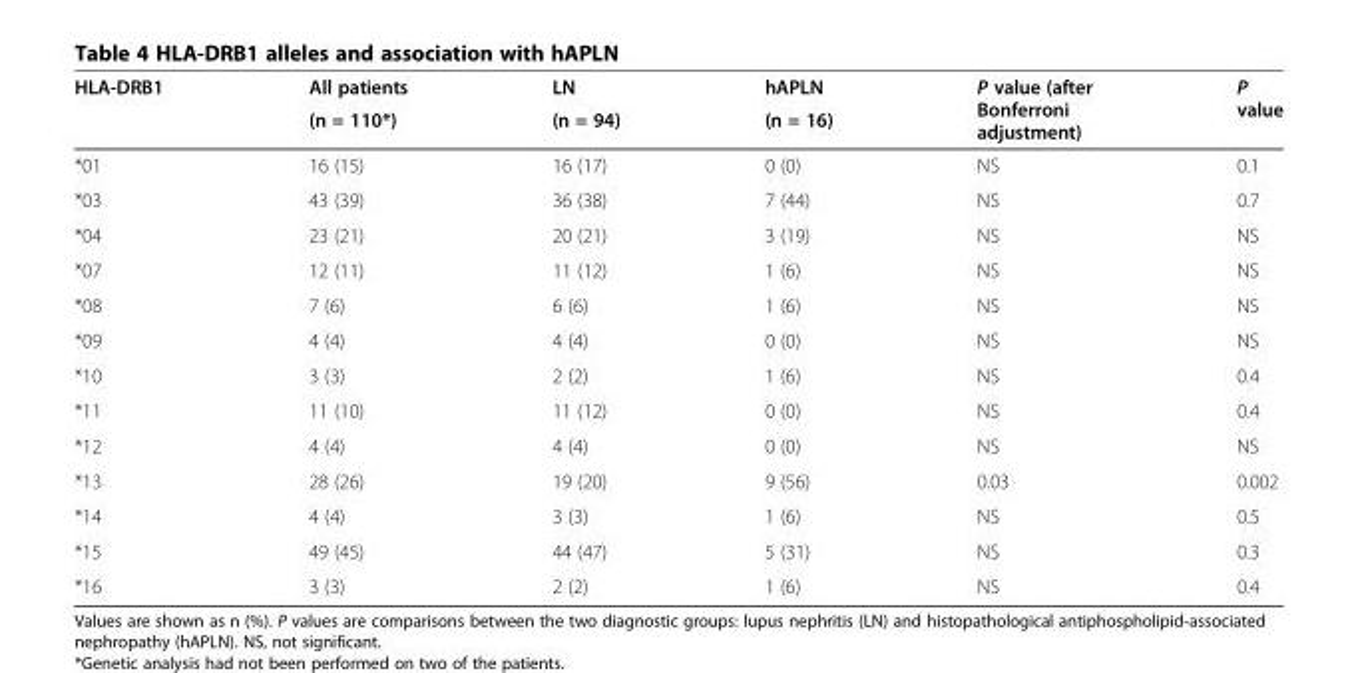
<table><thead><tr><td rowspan="2">HLA-DRB1</td><td rowspan="2">All patients (n = 110*)</td><td rowspan="2">LN (n = 94)</td><td rowspan="2">hAPLN (n = 16)</td><td rowspan="2">P value (after Bonferroni adjustment)</td><td rowspan="2">P value</td></tr><tr></tr></thead><tbody><tr><td>*01</td><td>16 (15)</td><td>16 (17)</td><td>0 (0)</td><td>NS</td><td>0.1</td></tr><tr><td>*03</td><td>43 (39)</td><td>36 (38)</td><td>7 (44)</td><td>NS</td><td>0.7</td></tr><tr><td>*04</td><td>23 (21)</td><td>20 (21)</td><td>3 (19)</td><td>NS</td><td>NS</td></tr><tr><td>*07</td><td>12 (11)</td><td>11 (12)</td><td>1 (6)</td><td>NS</td><td>NS</td></tr><tr><td>*08</td><td>7 (6)</td><td>6 (6)</td><td>1 (6)</td><td>NS</td><td>NS</td></tr><tr><td>*09</td><td>4 (4)</td><td>4 (4)</td><td>0 (0)</td><td>NS</td><td>NS</td></tr><tr><td>*10</td><td>3 (3)</td><td>2 (2)</td><td>1 (6)</td><td>NS</td><td>0.4</td></tr><tr><td>*11</td><td>11 (10)</td><td>11 (12)</td><td>0 (0)</td><td>NS</td><td>0.4</td></tr><tr><td>*12</td><td>4 (4)</td><td>4 (4)</td><td>0 (0)</td><td>NS</td><td>NS</td></tr><tr><td>*13</td><td>28 (26)</td><td>19 (20)</td><td>9 (56)</td><td>0.03</td><td>0.002</td></tr><tr><td>*14</td><td>4 (4)</td><td>3 (3)</td><td>1 (6)</td><td>NS</td><td>0.5</td></tr><tr><td>*15</td><td>49 (45)</td><td>44 (47)</td><td>5 (31)</td><td>NS</td><td>0.3</td></tr><tr><td>*16</td><td>3 (3)</td><td>2 (2)</td><td>1 (6)</td><td>NS</td><td>0.4</td></tr></tbody></table>